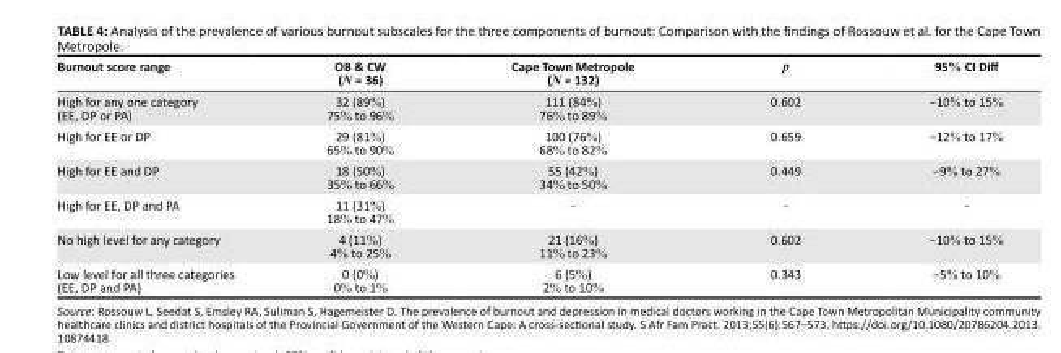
<table><thead><tr><td>Burnout score range</td><td>OB &amp; CW (N = 36)</td><td>Cape Town Metropole (N = 132)</td><td>p</td><td>95% CI Diff</td></tr></thead><tbody><tr><td>High for any one category (EE, DP or PA)</td><td>32 (89%) 75% to 96%</td><td>111 (84%) 76% to 89%</td><td>0.602</td><td>−10% to 15%</td></tr><tr><td>High for EE or DP</td><td>29 (81%) 65% to 90%</td><td>100 (76%) 68% to 82%</td><td>0.659</td><td>−12% to 17%</td></tr><tr><td>High for EE and DP</td><td>18 (50%) 35% to 66%</td><td>55 (42%) 34% to 50%</td><td>0.449</td><td>−9% to 27%</td></tr><tr><td>High for EE, DP and PA</td><td>11 (31%) 18% to 47%</td><td>-</td><td>-</td><td>-</td></tr><tr><td>No high level for any category</td><td>4 (11%) 4% to 25%</td><td>21 (16%) 11% to 23%</td><td>0.602</td><td>−10% to 15%</td></tr><tr><td>Low level for all three categories (EE, DP and PA)</td><td>0 (0%) 0% to 1%</td><td>6 (5%) 2% to 10%</td><td>0.343</td><td>−5% to 10%</td></tr></tbody></table>